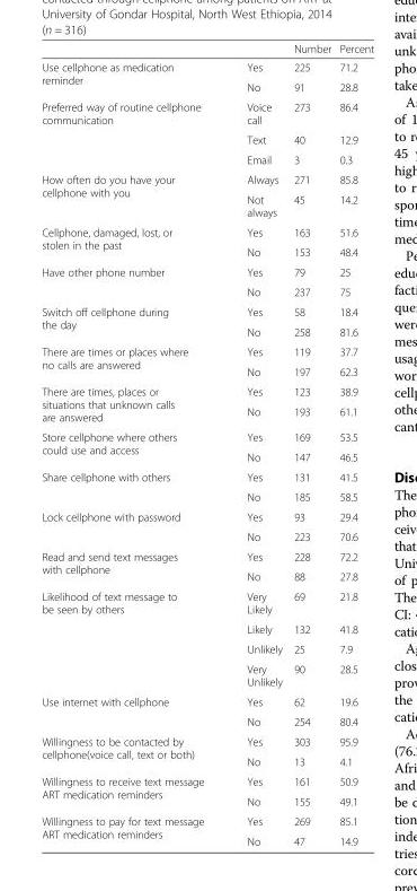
<table><thead><tr><td></td><td></td><td>Number</td><td>Percent</td></tr></thead><tbody><tr><td rowspan="2">Use cellphone as medication reminder</td><td>Yes</td><td>225</td><td>71.2</td></tr><tr><td>No</td><td>91</td><td>28.8</td></tr><tr><td rowspan="3">Preferred way of routine cellphone communication</td><td>Voice call</td><td>273</td><td>86.4</td></tr><tr><td>Text</td><td>40</td><td>12.9</td></tr><tr><td>Email</td><td>3</td><td>0.3</td></tr><tr><td rowspan="2">How often do you have your cellphone with you</td><td>Always</td><td>271</td><td>85.8</td></tr><tr><td>Not always</td><td>45</td><td>14.2</td></tr><tr><td rowspan="2">Cellphone, damaged, lost, or stolen in the past</td><td>Yes</td><td>163</td><td>51.6</td></tr><tr><td>No</td><td>153</td><td>48.4</td></tr><tr><td rowspan="2">Have other phone number</td><td>Yes</td><td>79</td><td>25</td></tr><tr><td>No</td><td>237</td><td>75</td></tr><tr><td rowspan="2">Switch off cellphone during the day</td><td>Yes</td><td>58</td><td>18.4</td></tr><tr><td>No</td><td>258</td><td>81.6</td></tr><tr><td rowspan="2">There are times or places where no calls are answered</td><td>Yes</td><td>119</td><td>37.7</td></tr><tr><td>No</td><td>197</td><td>62.3</td></tr><tr><td rowspan="2">There are times, places or situations that unknown calls are answered</td><td>Yes</td><td>123</td><td>38.9</td></tr><tr><td>No</td><td>193</td><td>61.1</td></tr><tr><td rowspan="2">Store cellphone where others could use and access</td><td>Yes</td><td>169</td><td>53.5</td></tr><tr><td>No</td><td>147</td><td>46.5</td></tr><tr><td rowspan="2">Share cellphone with others</td><td>Yes</td><td>131</td><td>41.5</td></tr><tr><td>No</td><td>185</td><td>58.5</td></tr><tr><td rowspan="2">Lock cellphone with password</td><td>Yes</td><td>93</td><td>29.4</td></tr><tr><td>No</td><td>223</td><td>70.6</td></tr><tr><td rowspan="2">Read and send text messages with cellphone</td><td>Yes</td><td>228</td><td>72.2</td></tr><tr><td>No</td><td>88</td><td>27.8</td></tr><tr><td rowspan="4">Likelihood of text message to be seen by others</td><td>Very Likely</td><td>69</td><td>21.8</td></tr><tr><td>Likely</td><td>132</td><td>41.8</td></tr><tr><td>Unlikely</td><td>25</td><td>7.9</td></tr><tr><td>Very Unlikely</td><td>90</td><td>28.5</td></tr><tr><td rowspan="2">Use internet with cellphone</td><td>Yes</td><td>62</td><td>19.6</td></tr><tr><td>No</td><td>254</td><td>80.4</td></tr><tr><td rowspan="2">Willingness to be contacted by cellphone(voice call, text or both)</td><td>Yes</td><td>303</td><td>95.9</td></tr><tr><td>No</td><td>13</td><td>4.1</td></tr><tr><td rowspan="2">Willingness to receive text message ART medication reminders</td><td>Yes</td><td>161</td><td>50.9</td></tr><tr><td>No</td><td>155</td><td>49.1</td></tr><tr><td rowspan="2">Willingness to pay for text message ART medication reminders</td><td>Yes</td><td>269</td><td>85.1</td></tr><tr><td>No</td><td>47</td><td>14.9</td></tr></tbody></table>